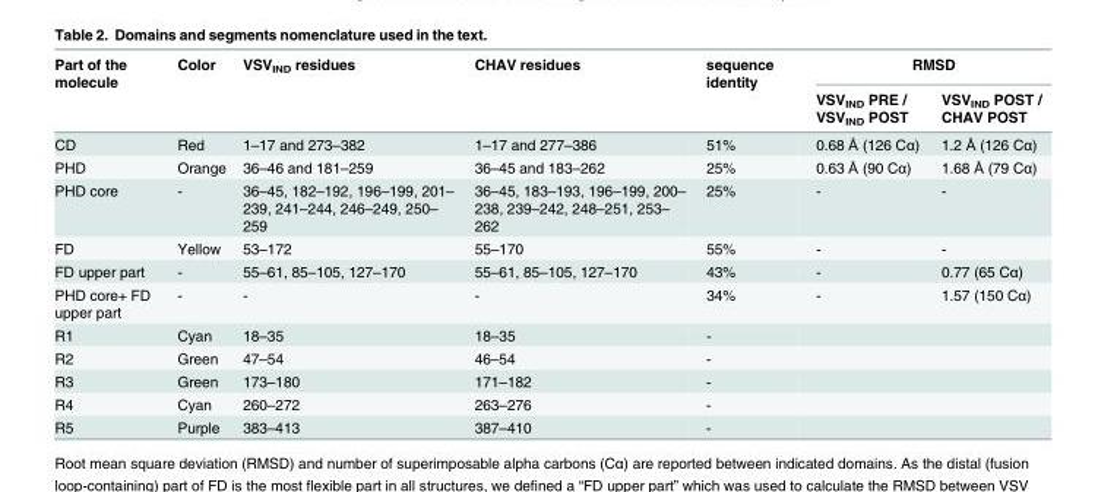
<table><thead><tr><td rowspan="2">Part of the molecule</td><td rowspan="2">Color</td><td rowspan="2">VSV<sub>IND</sub> residues</td><td rowspan="2">CHAV residues</td><td rowspan="2">sequence identity</td><td colspan="2">RMSD</td></tr><tr><td>VSV<sub>IND</sub> PRE / VSV<sub>IND</sub> POST</td><td>VSV<sub>IND</sub> POST / CHAV POST</td></tr></thead><tbody><tr><td>CD</td><td>Red</td><td>1–17 and 273–382</td><td>1–17 and 277–386</td><td>51%</td><td>0.68 Å (126 Cα)</td><td>1.2 Å (126 Cα)</td></tr><tr><td>PHD</td><td>Orange</td><td>36–46 and 181–259</td><td>36–45 and 183–262</td><td>25%</td><td>0.63 Å (90 Cα)</td><td>1.68 Å (79 Cα)</td></tr><tr><td>PHD core</td><td>-</td><td>36–45, 182–192, 196–199, 201– 239, 241–244, 246–249, 250– 259</td><td>36–45, 183–193, 196–199, 200– 238, 239–242, 248–251, 253– 262</td><td>25%</td><td>-</td><td>-</td></tr><tr><td>FD</td><td>Yellow</td><td>53–172</td><td>55–170</td><td>55%</td><td>-</td><td>-</td></tr><tr><td>FD upper part</td><td>-</td><td>55–61, 85–105, 127–170</td><td>55–61, 85–105, 127–170</td><td>43%</td><td>-</td><td>0.77 (65 Cα)</td></tr><tr><td>PHD core+ FD upper part</td><td>-</td><td>-</td><td>-</td><td>34%</td><td>-</td><td>1.57 (150 Cα)</td></tr><tr><td>R1</td><td>Cyan</td><td>18–35</td><td>18–35</td><td>-</td><td colspan="2"></td></tr><tr><td>R2</td><td>Green</td><td>47–54</td><td>46–54</td><td>-</td><td colspan="2"></td></tr><tr><td>R3</td><td>Green</td><td>173–180</td><td>171–182</td><td>-</td><td colspan="2"></td></tr><tr><td>R4</td><td>Cyan</td><td>260–272</td><td>263–276</td><td>-</td><td colspan="2"></td></tr><tr><td>R5</td><td>Purple</td><td>383–413</td><td>387–410</td><td>-</td><td colspan="2"></td></tr></tbody></table>